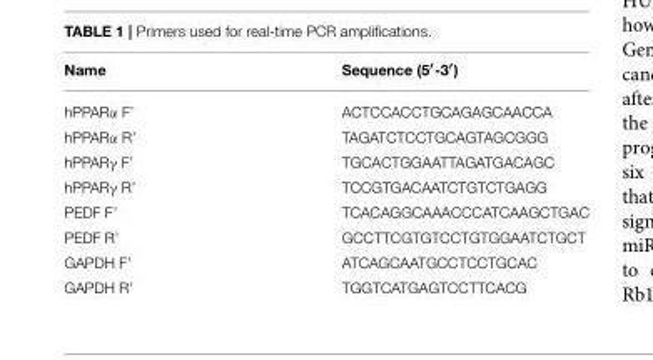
<table><thead><tr><td>Name</td><td>Sequence (5′-3′)</td></tr></thead><tbody><tr><td>hPPARα F’</td><td>ACTCCACCTGCAGAGCAACCA</td></tr><tr><td>hPPARα R’</td><td>TAGATCTCCTGCAGTAGCGGG</td></tr><tr><td>hPPARγ F’</td><td>TGCACTGGAATTAGATGACAGC</td></tr><tr><td>hPPARγ R’</td><td>TCCGTGACAATCTGTCTGAGG</td></tr><tr><td>PEDF F’</td><td>TCACAGGCAAACCCATCAAGCTGAC</td></tr><tr><td>PEDF R’</td><td>GCCTTCGTGTCCTGTGGAATCTGCT</td></tr><tr><td>GAPDH F’</td><td>ATCAGCAATGCCTCCTGCAC</td></tr><tr><td>GAPDH R’</td><td>TGGTCATGAGTCCTTCACG</td></tr></tbody></table>